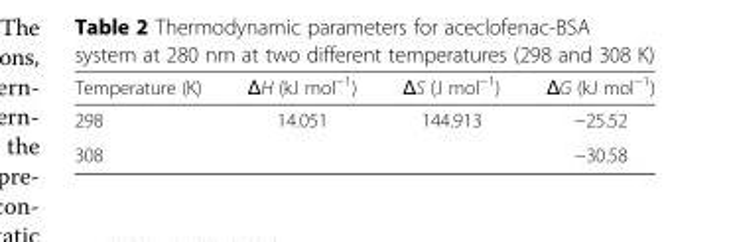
<table><thead><tr><td>Temperature (K)</td><td>ΔH (kJ mol<sup>−1</sup>)</td><td>ΔS (J mol<sup>−1</sup>)</td><td>ΔG (kJ mol<sup>−1</sup>)</td></tr></thead><tbody><tr><td>298</td><td>14.051</td><td>144.913</td><td>−25.52</td></tr><tr><td>308</td><td></td><td></td><td>−30.58</td></tr></tbody></table>